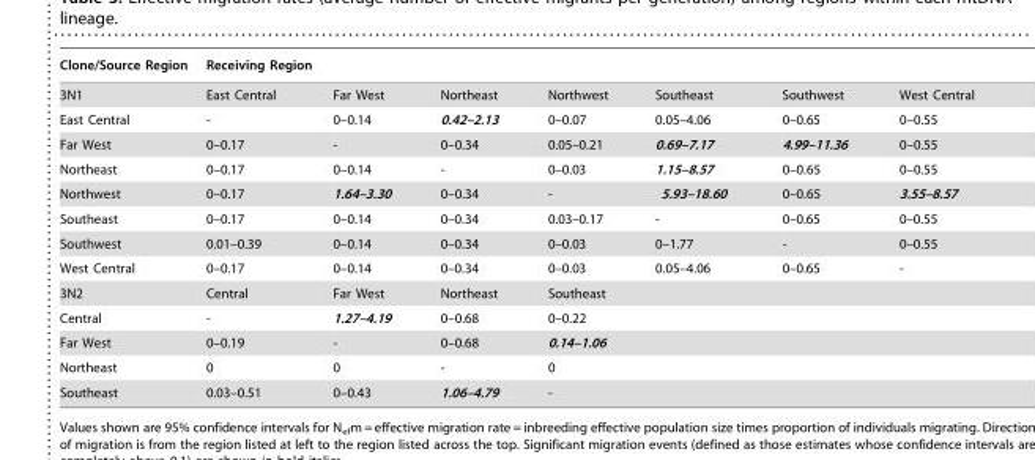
<table><thead><tr><td rowspan="2">Clone/Source Region 3N1</td><td colspan="7">Receiving Region</td></tr><tr><td>East Central</td><td>Far West</td><td>Northeast</td><td>Northwest</td><td>Southeast</td><td>Southwest</td><td>West Central</td></tr></thead><tbody><tr><td>East Central</td><td>-</td><td>0–0.14</td><td>0.42–2.13</td><td>0–0.07</td><td>0.05–4.06</td><td>0–0.65</td><td>0–0.55</td></tr><tr><td>Far West</td><td>0–0.17</td><td>-</td><td>0–0.34</td><td>0.05–0.21</td><td>0.69–7.17</td><td>4.99–11.36</td><td>0–0.55</td></tr><tr><td>Northeast</td><td>0–0.17</td><td>0–0.14</td><td>-</td><td>0–0.03</td><td>1.15–8.57</td><td>0–0.65</td><td>0–0.55</td></tr><tr><td>Northwest</td><td>0–0.17</td><td>1.64–3.30</td><td>0–0.34</td><td>-</td><td>5.93–18.60</td><td>0–0.65</td><td>3.55–8.57</td></tr><tr><td>Southeast</td><td>0–0.17</td><td>0–0.14</td><td>0–0.34</td><td>0.03–0.17</td><td>-</td><td>0–0.65</td><td>0–0.55</td></tr><tr><td>Southwest</td><td>0.01–0.39</td><td>0–0.14</td><td>0–0.34</td><td>0–0.03</td><td>0–1.77</td><td>-</td><td>0–0.55</td></tr><tr><td>West Central</td><td>0–0.17</td><td>0–0.14</td><td>0–0.34</td><td>0–0.03</td><td>0.05–4.06</td><td>0–0.65</td><td>-</td></tr><tr><td>3N2</td><td>Central</td><td>Far West</td><td>Northeast</td><td>Southeast</td><td colspan="3"></td></tr><tr><td>Central</td><td>-</td><td>1.27–4.19</td><td>0–0.68</td><td>0–0.22</td><td colspan="3"></td></tr><tr><td>Far West</td><td>0–0.19</td><td>-</td><td>0–0.68</td><td>0.14–1.06</td><td colspan="3"></td></tr><tr><td>Northeast</td><td>0</td><td>0</td><td>-</td><td>0</td><td colspan="3"></td></tr><tr><td>Southeast</td><td>0.03–0.51</td><td>0–0.43</td><td>1.06–4.79</td><td>-</td><td colspan="3"></td></tr></tbody></table>